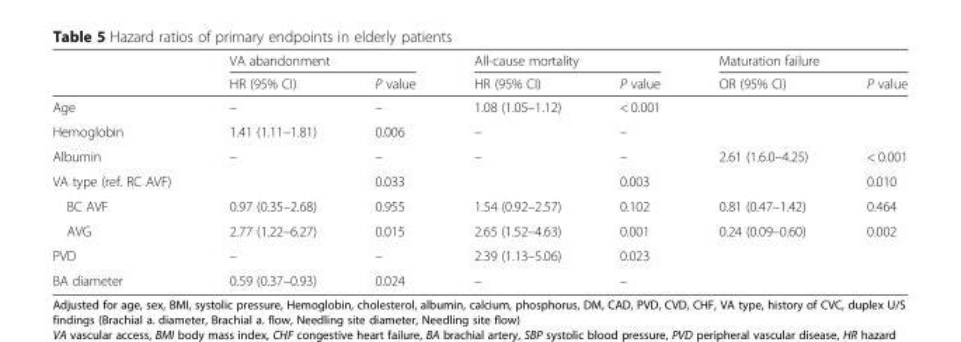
<table><thead><tr><td rowspan="2"></td><td colspan="2">VA abandonment</td><td colspan="2">All-cause mortality</td><td colspan="2">Maturation failure</td></tr><tr><td>HR (95% CI)</td><td>P value</td><td>HR (95% CI)</td><td>P value</td><td>OR (95% CI)</td><td>P value</td></tr></thead><tbody><tr><td>Age</td><td>–</td><td>–</td><td>1.08 (1.05–1.12)</td><td>&lt; 0.001</td><td></td><td></td></tr><tr><td>Hemoglobin</td><td>1.41 (1.11–1.81)</td><td>0.006</td><td>–</td><td>–</td><td></td><td></td></tr><tr><td>Albumin</td><td>–</td><td>–</td><td>–</td><td>–</td><td>2.61 (1.6.0–4.25)</td><td>&lt; 0.001</td></tr><tr><td>VA type (ref. RC AVF)</td><td></td><td>0.033</td><td></td><td>0.003</td><td></td><td>0.010</td></tr><tr><td>BC AVF</td><td>0.97 (0.35–2.68)</td><td>0.955</td><td>1.54 (0.92–2.57)</td><td>0.102</td><td>0.81 (0.47–1.42)</td><td>0.464</td></tr><tr><td>AVG</td><td>2.77 (1.22–6.27)</td><td>0.015</td><td>2.65 (1.52–4.63)</td><td>0.001</td><td>0.24 (0.09–0.60)</td><td>0.002</td></tr><tr><td>PVD</td><td>–</td><td>–</td><td>2.39 (1.13–5.06)</td><td>0.023</td><td></td><td></td></tr><tr><td>BA diameter</td><td>0.59 (0.37–0.93)</td><td>0.024</td><td>–</td><td>–</td><td></td><td></td></tr></tbody></table>